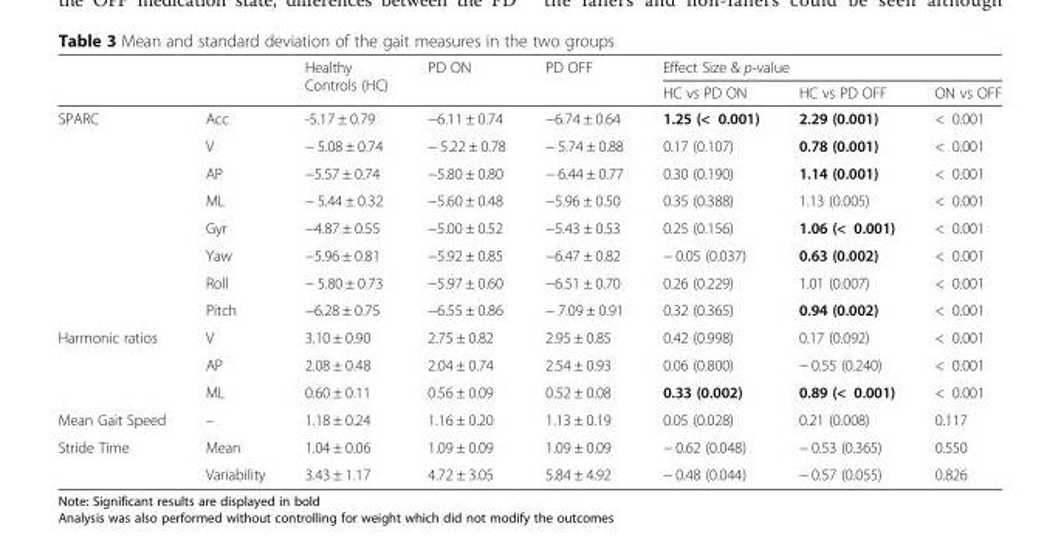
<table><thead><tr><td rowspan="2"></td><td rowspan="2"></td><td rowspan="2">Healthy Controls (HC)</td><td rowspan="2">PD ON</td><td rowspan="2">PD OFF</td><td colspan="3">Effect Size &amp; p-value</td></tr><tr><td>HC vs PD ON</td><td>HC vs PD OFF</td><td>ON vs OFF</td></tr></thead><tbody><tr><td rowspan="8">SPARC</td><td>Acc</td><td>-5.17 ± 0.79</td><td>−6.11 ± 0.74</td><td>−6.74 ± 0.64</td><td>1.25 (&lt; 0.001)</td><td>2.29 (0.001)</td><td>&lt; 0.001</td></tr><tr><td>V</td><td>− 5.08 ± 0.74</td><td>− 5.22 ± 0.78</td><td>− 5.74 ± 0.88</td><td>0.17 (0.107)</td><td>0.78 (0.001)</td><td>&lt; 0.001</td></tr><tr><td>AP</td><td>−5.57 ± 0.74</td><td>−5.80 ± 0.80</td><td>− 6.44 ± 0.77</td><td>0.30 (0.190)</td><td>1.14 (0.001)</td><td>&lt; 0.001</td></tr><tr><td>ML</td><td>− 5.44 ± 0.32</td><td>−5.60 ± 0.48</td><td>−5.96 ± 0.50</td><td>0.35 (0.388)</td><td>1.13 (0.005)</td><td>&lt; 0.001</td></tr><tr><td>Gyr</td><td>−4.87 ± 0.55</td><td>−5.00 ± 0.52</td><td>−5.43 ± 0.53</td><td>0.25 (0.156)</td><td>1.06 (&lt; 0.001)</td><td>&lt; 0.001</td></tr><tr><td>Yaw</td><td>−5.96 ± 0.81</td><td>−5.92 ± 0.85</td><td>−6.47 ± 0.82</td><td>− 0.05 (0.037)</td><td>0.63 (0.002)</td><td>&lt; 0.001</td></tr><tr><td>Roll</td><td>− 5.80 ± 0.73</td><td>−5.97 ± 0.60</td><td>−6.51 ± 0.70</td><td>0.26 (0.229)</td><td>1.01 (0.007)</td><td>&lt; 0.001</td></tr><tr><td>Pitch</td><td>−6.28 ± 0.75</td><td>−6.55 ± 0.86</td><td>− 7.09 ± 0.91</td><td>0.32 (0.365)</td><td>0.94 (0.002)</td><td>&lt; 0.001</td></tr><tr><td rowspan="3">Harmonic ratios</td><td>V</td><td>3.10 ± 0.90</td><td>2.75 ± 0.82</td><td>2.95 ± 0.85</td><td>0.42 (0.998)</td><td>0.17 (0.092)</td><td>&lt; 0.001</td></tr><tr><td>AP</td><td>2.08 ± 0.48</td><td>2.04 ± 0.74</td><td>2.54 ± 0.93</td><td>0.06 (0.800)</td><td>− 0.55 (0.240)</td><td>&lt; 0.001</td></tr><tr><td>ML</td><td>0.60 ± 0.11</td><td>0.56 ± 0.09</td><td>0.52 ± 0.08</td><td>0.33 (0.002)</td><td>0.89 (&lt; 0.001)</td><td>&lt; 0.001</td></tr><tr><td>Mean Gait Speed</td><td>–</td><td>1.18 ± 0.24</td><td>1.16 ± 0.20</td><td>1.13 ± 0.19</td><td>0.05 (0.028)</td><td>0.21 (0.008)</td><td>0.117</td></tr><tr><td rowspan="2">Stride Time</td><td>Mean</td><td>1.04 ± 0.06</td><td>1.09 ± 0.09</td><td>1.09 ± 0.09</td><td>− 0.62 (0.048)</td><td>− 0.53 (0.365)</td><td>0.550</td></tr><tr><td>Variability</td><td>3.43 ± 1.17</td><td>4.72 ± 3.05</td><td>5.84 ± 4.92</td><td>− 0.48 (0.044)</td><td>− 0.57 (0.055)</td><td>0.826</td></tr></tbody></table>